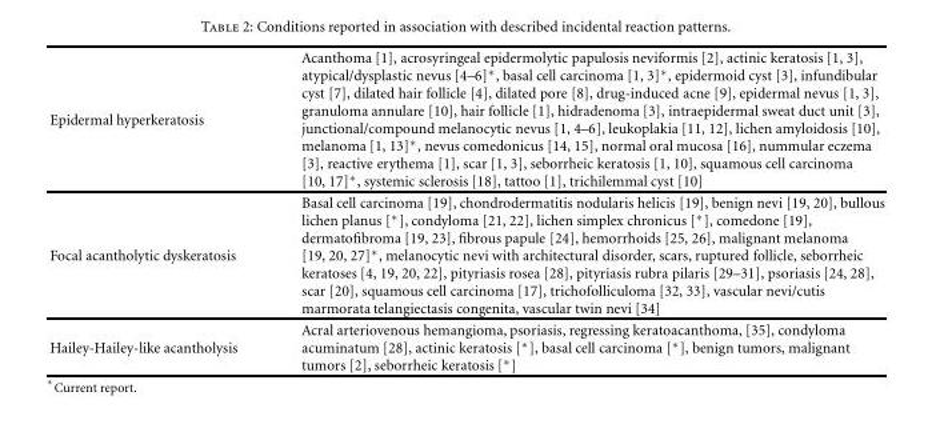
<table><tbody><tr><td>Epidermal hyperkeratosis</td><td>Acanthoma [1], acrosyringeal epidermolytic papulosis neviformis [2], actinic keratosis [1, 3], atypical/dysplastic nevus [4–6]∗, basal cell carcinoma [1, 3]∗, epidermoid cyst [3], infundibular cyst [7], dilated hair follicle [4], dilated pore [8], drug-induced acne [9], epidermal nevus [1, 3], granuloma annulare [10], hair follicle [1], hidradenoma [3], intraepidermal sweat duct unit [3], junctional/compound melanocytic nevus [1, 4–6], leukoplakia [11, 12], lichen amyloidosis [10], melanoma [1, 13]∗, nevus comedonicus [14, 15], normal oral mucosa [16], nummular eczema [3], reactive erythema [1], scar [1, 3], seborrheic keratosis [1, 10], squamous cell carcinoma [10, 17]∗, systemic sclerosis [18], tattoo [1], trichilemmal cyst [10]</td></tr><tr><td>Focal acantholytic dyskeratosis</td><td>Basal cell carcinoma [19], chondrodermatitis nodularis helicis [19], benign nevi [19, 20], bullous lichen planus [∗], condyloma [21, 22], lichen simplex chronicus [∗], comedone [19], dermatofibroma [19, 23], fibrous papule [24], hemorrhoids [25, 26], malignant melanoma [19, 20, 27]∗, melanocytic nevi with architectural disorder, scars, ruptured follicle, seborrheic keratoses [4, 19, 20, 22], pityriasis rosea [28], pityriasis rubra pilaris [29–31], psoriasis [24, 28], scar [20], squamous cell carcinoma [17], trichofolliculoma [32, 33], vascular nevi/cutis marmorata telangiectasis congenita, vascular twin nevi [34]</td></tr><tr><td>Hailey-Hailey-like acantholysis</td><td>Acral arteriovenous hemangioma, psoriasis, regressing keratoacanthoma, [35], condyloma acuminatum [28], actinic keratosis [∗], basal cell carcinoma [∗], benign tumors, malignant tumors [2], seborrheic keratosis [∗]</td></tr></tbody></table>